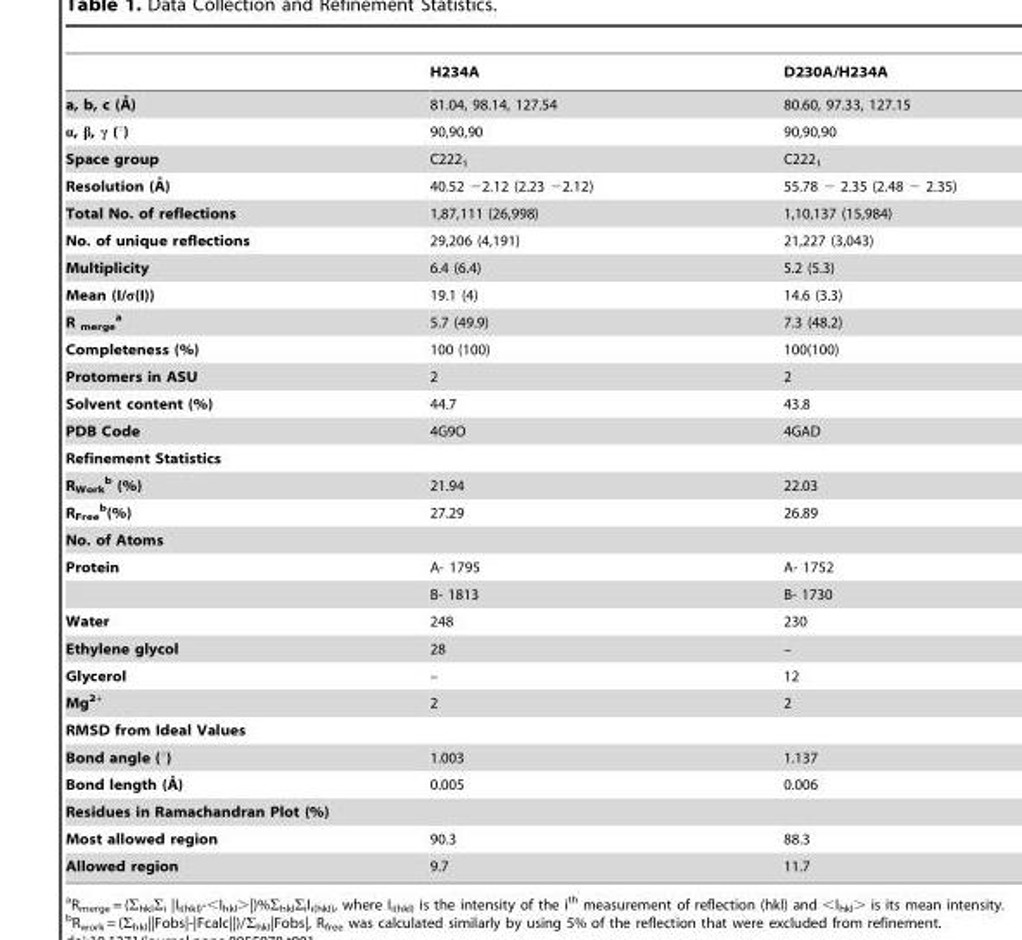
<table><thead><tr><td></td><td>H234A</td><td>D230A/H234A</td></tr></thead><tbody><tr><td>a, b, c (A˚ )</td><td>81.04, 98.14, 127.54</td><td>80.60, 97.33, 127.15</td></tr><tr><td>α, β, γ (°)</td><td>90,90,90</td><td>90,90,90</td></tr><tr><td>Space group</td><td>C222<sub>1</sub></td><td>C222<sub>1</sub></td></tr><tr><td>Resolution (A˚ )</td><td>40.52 −2.12 (2.23 −2.12)</td><td>55.78 − 2.35 (2.48 − 2.35)</td></tr><tr><td>Total No. of reflections</td><td>1,87,111 (26,998)</td><td>1,10,137 (15,984)</td></tr><tr><td>No. of unique reflections</td><td>29,206 (4,191)</td><td>21,227 (3,043)</td></tr><tr><td>Multiplicity</td><td>6.4 (6.4)</td><td>5.2 (5.3)</td></tr><tr><td>Mean (I/σ(I))</td><td>19.1 (4)</td><td>14.6 (3.3)</td></tr><tr><td>R <sub>merge</sub> a</td><td>5.7 (49.9)</td><td>7.3 (48.2)</td></tr><tr><td>Completeness (%)</td><td>100 (100)</td><td>100(100)</td></tr><tr><td>Protomers in ASU</td><td>2</td><td>2</td></tr><tr><td>Solvent content (%)</td><td>44.7</td><td>43.8</td></tr><tr><td>PDB Code</td><td>4G9O</td><td>4GAD</td></tr><tr><td colspan="3">Refinement Statistics</td></tr><tr><td>R<sub>Work</sub> b (%)</td><td>21.94</td><td>22.03</td></tr><tr><td>R<sub>Free</sub> b(%)</td><td>27.29</td><td>26.89</td></tr><tr><td colspan="3">No. of Atoms</td></tr><tr><td rowspan="2">Protein</td><td>A- 1795</td><td>A- 1752</td></tr><tr><td>B- 1813</td><td>B- 1730</td></tr><tr><td>Water</td><td>248</td><td>230</td></tr><tr><td>Ethylene glycol</td><td>28</td><td>–</td></tr><tr><td>Glycerol</td><td>–</td><td>12</td></tr><tr><td>Mg<sup>2+</sup></td><td>2</td><td>2</td></tr><tr><td colspan="3">RMSD from Ideal Values</td></tr><tr><td>Bond angle (°)</td><td>1.003</td><td>1.137</td></tr><tr><td>Bond length (A˚ )</td><td>0.005</td><td>0.006</td></tr><tr><td colspan="3">Residues in Ramachandran Plot (%)</td></tr><tr><td>Most allowed region</td><td>90.3</td><td>88.3</td></tr><tr><td>Allowed region</td><td>9.7</td><td>11.7</td></tr></tbody></table>